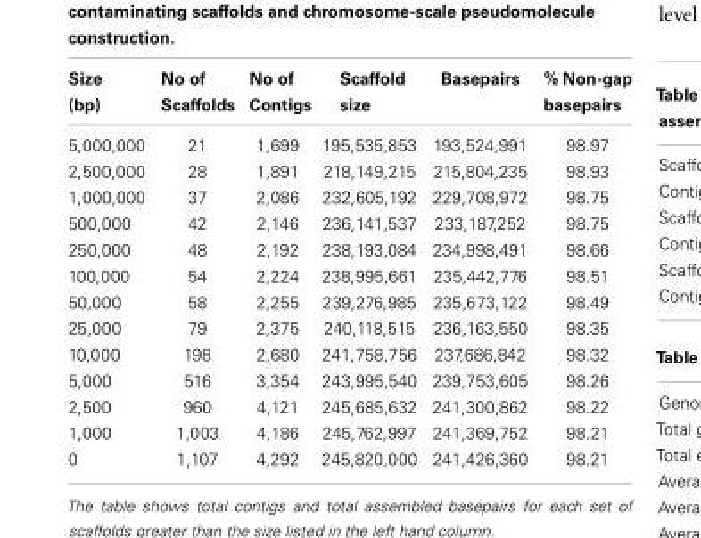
<table><thead><tr><td>Size (bp)</td><td>No of Scaffolds</td><td>No of Contigs</td><td>Scaffold size</td><td>Basepairs</td><td>% Non-gap basepairs</td></tr></thead><tbody><tr><td>5,000,000</td><td>21</td><td>1,699</td><td>195,535,853</td><td>193,524,991</td><td>98.97</td></tr><tr><td>2,500,000</td><td>28</td><td>1,891</td><td>218,149,215</td><td>215,804,235</td><td>98.93</td></tr><tr><td>1,000,000</td><td>37</td><td>2,086</td><td>232,605,192</td><td>229,708,972</td><td>98.75</td></tr><tr><td>500,000</td><td>42</td><td>2,146</td><td>236,141,537</td><td>233,187,252</td><td>98.75</td></tr><tr><td>250,000</td><td>48</td><td>2,192</td><td>238,193,084</td><td>234,998,491</td><td>98.66</td></tr><tr><td>100,000</td><td>54</td><td>2,224</td><td>238,995,661</td><td>235,442,776</td><td>98.51</td></tr><tr><td>50,000</td><td>58</td><td>2,255</td><td>239,276,985</td><td>235,673,122</td><td>98.49</td></tr><tr><td>25,000</td><td>79</td><td>2,375</td><td>240,118,515</td><td>236,163,550</td><td>98.35</td></tr><tr><td>10,000</td><td>198</td><td>2,680</td><td>241,758,756</td><td>237,686,842</td><td>98.32</td></tr><tr><td>5,000</td><td>516</td><td>3,354</td><td>243,995,540</td><td>239,753,605</td><td>98.26</td></tr><tr><td>2,500</td><td>960</td><td>4,121</td><td>245,685,632</td><td>241,300,862</td><td>98.22</td></tr><tr><td>1,000</td><td>1,003</td><td>4,186</td><td>245,762,997</td><td>241,369,752</td><td>98.21</td></tr><tr><td>0</td><td>1,107</td><td>4,292</td><td>245,820,000</td><td>241,426,360</td><td>98.21</td></tr></tbody></table>